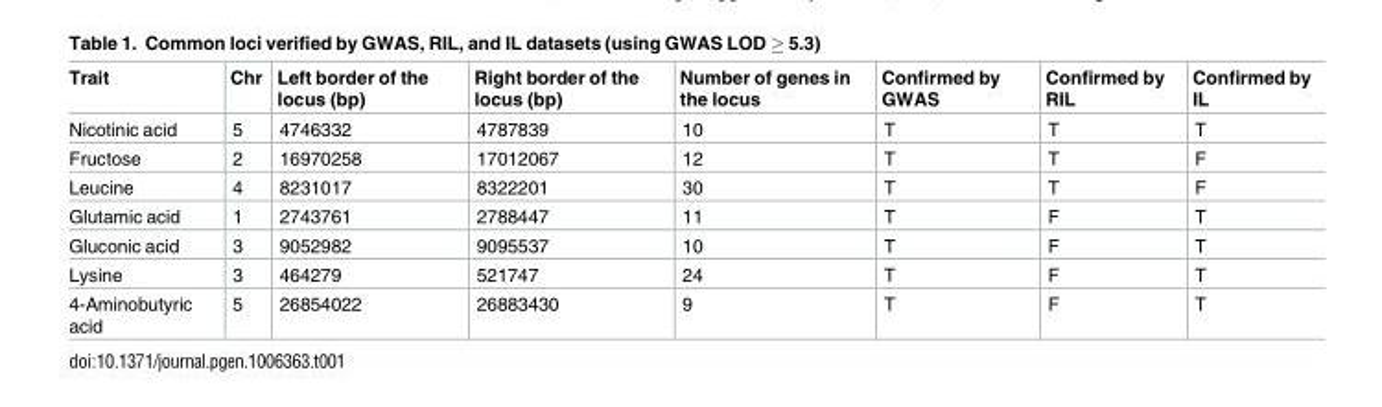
<table><thead><tr><td>Trait</td><td>Chr</td><td>Left border of the locus (bp)</td><td>Right border of the locus (bp)</td><td>Number of genes in the locus</td><td>Confirmed by GWAS</td><td>Confirmed by RIL</td><td>Confirmed by IL</td></tr></thead><tbody><tr><td>Nicotinic acid</td><td>5</td><td>4746332</td><td>4787839</td><td>10</td><td>T</td><td>T</td><td>T</td></tr><tr><td>Fructose</td><td>2</td><td>16970258</td><td>17012067</td><td>12</td><td>T</td><td>T</td><td>F</td></tr><tr><td>Leucine</td><td>4</td><td>8231017</td><td>8322201</td><td>30</td><td>T</td><td>T</td><td>F</td></tr><tr><td>Glutamic acid</td><td>1</td><td>2743761</td><td>2788447</td><td>11</td><td>T</td><td>F</td><td>T</td></tr><tr><td>Gluconic acid</td><td>3</td><td>9052982</td><td>9095537</td><td>10</td><td>T</td><td>F</td><td>T</td></tr><tr><td>Lysine</td><td>3</td><td>464279</td><td>521747</td><td>24</td><td>T</td><td>F</td><td>T</td></tr><tr><td>4-Aminobutyric acid</td><td>5</td><td>26854022</td><td>26883430</td><td>9</td><td>T</td><td>F</td><td>T</td></tr></tbody></table>